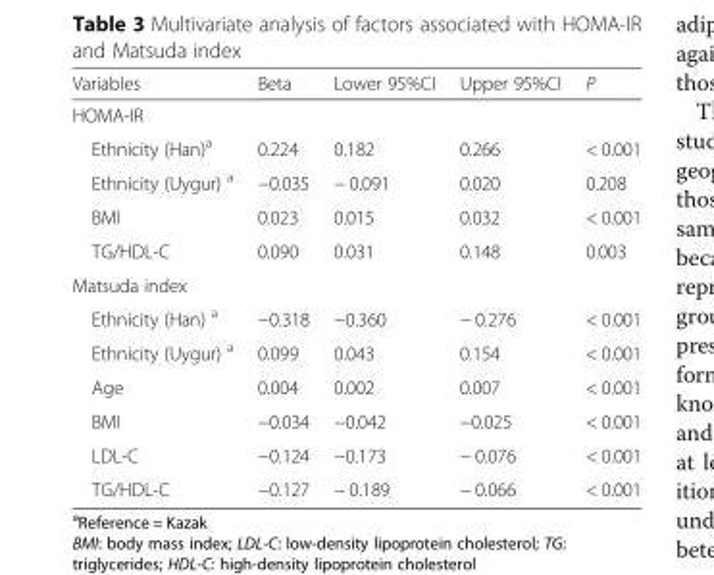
<table><thead><tr><td>Variables</td><td>Beta</td><td>Lower 95%CI</td><td>Upper 95%CI</td><td>P</td></tr></thead><tbody><tr><td colspan="5">HOMA-IR</td></tr><tr><td>Ethnicity (Han)<sup>a</sup></td><td>0.224</td><td>0.182</td><td>0.266</td><td>&lt; 0.001</td></tr><tr><td>Ethnicity (Uygur) <sup>a</sup></td><td>−0.035</td><td>− 0.091</td><td>0.020</td><td>0.208</td></tr><tr><td>BMI</td><td>0.023</td><td>0.015</td><td>0.032</td><td>&lt; 0.001</td></tr><tr><td>TG/HDL-C</td><td>0.090</td><td>0.031</td><td>0.148</td><td>0.003</td></tr><tr><td colspan="5">Matsuda index</td></tr><tr><td>Ethnicity (Han) <sup>a</sup></td><td>−0.318</td><td>−0.360</td><td>− 0.276</td><td>&lt; 0.001</td></tr><tr><td>Ethnicity (Uygur) <sup>a</sup></td><td>0.099</td><td>0.043</td><td>0.154</td><td>&lt; 0.001</td></tr><tr><td>Age</td><td>0.004</td><td>0.002</td><td>0.007</td><td>&lt; 0.001</td></tr><tr><td>BMI</td><td>−0.034</td><td>−0.042</td><td>−0.025</td><td>&lt; 0.001</td></tr><tr><td>LDL-C</td><td>−0.124</td><td>−0.173</td><td>− 0.076</td><td>&lt; 0.001</td></tr><tr><td>TG/HDL-C</td><td>−0.127</td><td>− 0.189</td><td>− 0.066</td><td>&lt; 0.001</td></tr></tbody></table>